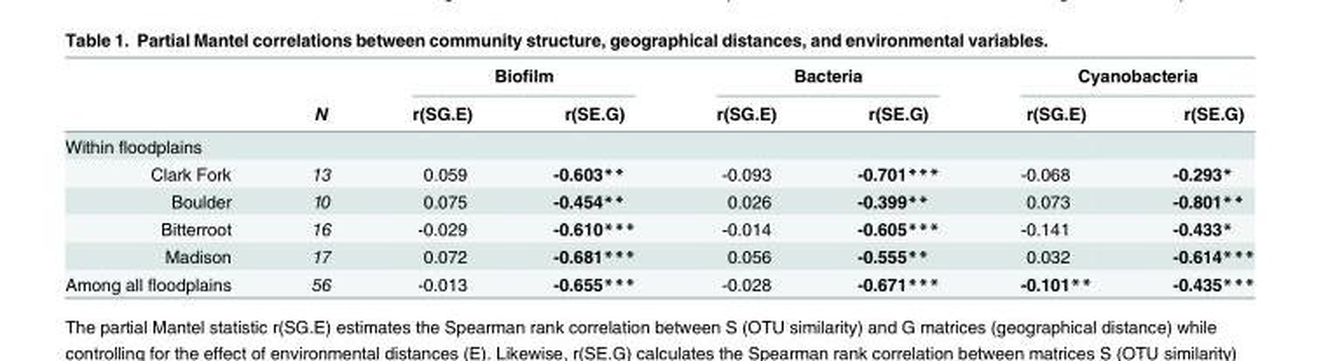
<table><thead><tr><td rowspan="2"></td><td rowspan="2">N</td><td colspan="2">Biofilm</td><td colspan="2">Bacteria</td><td colspan="2">Cyanobacteria</td></tr><tr><td>r(SG.E)</td><td>r(SE.G)</td><td>r(SG.E)</td><td>r(SE.G)</td><td>r(SG.E)</td><td>r(SE.G)</td></tr></thead><tbody><tr><td colspan="8">Within floodplains</td></tr><tr><td>Clark Fork</td><td>13</td><td>0.059</td><td>-0.603**</td><td>-0.093</td><td>-0.701***</td><td>-0.068</td><td>-0.293*</td></tr><tr><td>Boulder</td><td>10</td><td>0.075</td><td>-0.454**</td><td>0.026</td><td>-0.399**</td><td>0.073</td><td>-0.801**</td></tr><tr><td>Bitterroot</td><td>16</td><td>-0.029</td><td>-0.610***</td><td>-0.014</td><td>-0.605***</td><td>-0.141</td><td>-0.433*</td></tr><tr><td>Madison</td><td>17</td><td>0.072</td><td>-0.681***</td><td>0.056</td><td>-0.555**</td><td>0.032</td><td>-0.614***</td></tr><tr><td>Among all floodplains</td><td>56</td><td>-0.013</td><td>-0.655***</td><td>-0.028</td><td>-0.671***</td><td>-0.101**</td><td>-0.435***</td></tr></tbody></table>